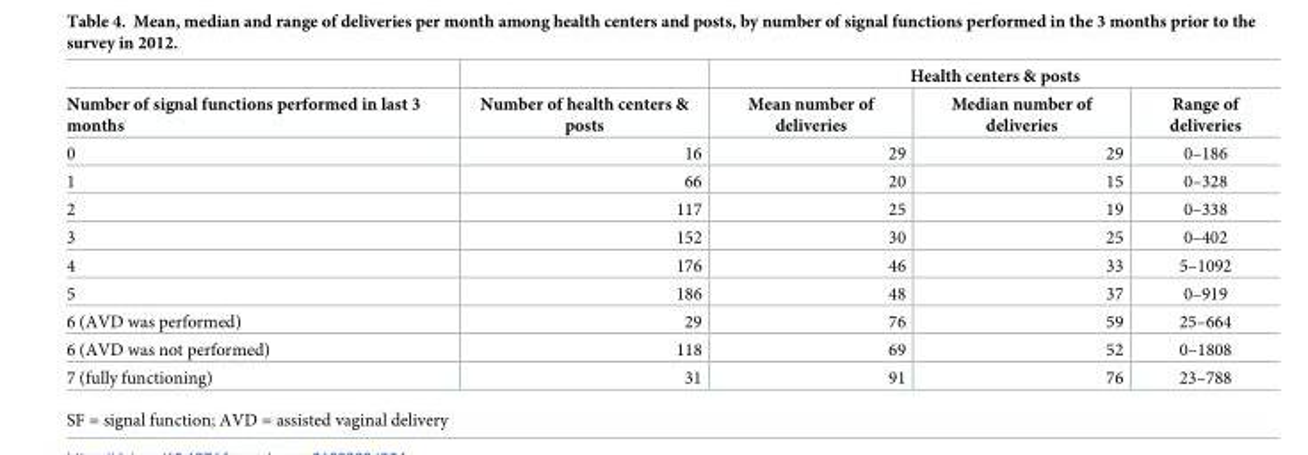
<table><thead><tr><td rowspan="2">Number of signal functions performed in last 3 months</td><td rowspan="2">Number of health centers &amp; posts</td><td colspan="3">Health centers &amp; posts</td></tr><tr><td>Mean number of deliveries</td><td>Median number of deliveries</td><td>Range of deliveries</td></tr></thead><tbody><tr><td>0</td><td>16</td><td>29</td><td>29</td><td>0–186</td></tr><tr><td>1</td><td>66</td><td>20</td><td>15</td><td>0–328</td></tr><tr><td>2</td><td>117</td><td>25</td><td>19</td><td>0–338</td></tr><tr><td>3</td><td>152</td><td>30</td><td>25</td><td>0–402</td></tr><tr><td>4</td><td>176</td><td>46</td><td>33</td><td>5–1092</td></tr><tr><td>5</td><td>186</td><td>48</td><td>37</td><td>0–919</td></tr><tr><td>6 (AVD was performed)</td><td>29</td><td>76</td><td>59</td><td>25–664</td></tr><tr><td>6 (AVD was not performed)</td><td>118</td><td>69</td><td>52</td><td>0–1808</td></tr><tr><td>7 (fully functioning)</td><td>31</td><td>91</td><td>76</td><td>23–788</td></tr></tbody></table>